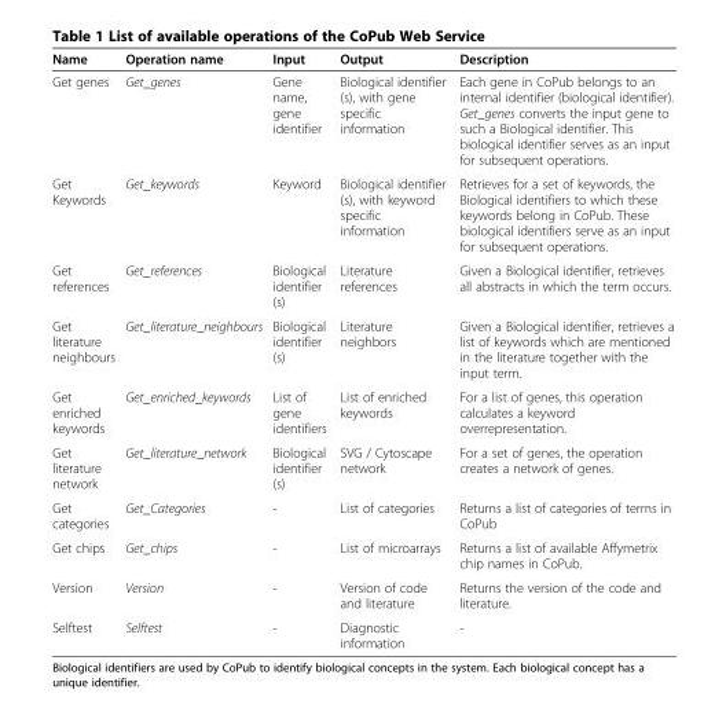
<table><thead><tr><td>Name</td><td>Operation name</td><td>Input</td><td>Output</td><td>Description</td></tr></thead><tbody><tr><td>Get genes</td><td>Get_genes</td><td>Gene name, gene identifier</td><td>Biological identifier (s), with gene specific information</td><td>Each gene in CoPub belongs to an internal identifier (biological identifier). Get_genes converts the input gene to such a Biological identifier. This biological identifier serves as an input for subsequent operations.</td></tr><tr><td>Get Keywords</td><td>Get_keywords</td><td>Keyword</td><td>Biological identifier (s), with keyword specific information</td><td>Retrieves for a set of keywords, the Biological identifiers to which these keywords belong in CoPub. These biological identifiers serve as an input for subsequent operations.</td></tr><tr><td>Get references</td><td>Get_references</td><td>Biological identifier (s)</td><td>Literature references</td><td>Given a Biological identifier, retrieves all abstracts in which the term occurs.</td></tr><tr><td>Get literature neighbours</td><td>Get_literature_neighbours</td><td>Biological identifier (s)</td><td>Literature neighbors</td><td>Given a Biological identifier, retrieves a list of keywords which are mentioned in the literature together with the input term.</td></tr><tr><td>Get enriched keywords</td><td>Get_enriched_keywords</td><td>List of gene identifiers</td><td>List of enriched keywords</td><td>For a list of genes, this operation calculates a keyword overrepresentation.</td></tr><tr><td>Get literature network</td><td>Get_literature_network</td><td>Biological identifier (s)</td><td>SVG / Cytoscape network</td><td>For a set of genes, the operation creates a network of genes.</td></tr><tr><td>Get categories</td><td>Get_Categories</td><td>-</td><td>List of categories</td><td>Returns a list of categories of terms in CoPub</td></tr><tr><td>Get chips</td><td>Get_chips</td><td>-</td><td>List of microarrays</td><td>Returns a list of available Affymetrix chip names in CoPub.</td></tr><tr><td>Version</td><td>Version</td><td>-</td><td>Version of code and literature</td><td>Returns the version of the code and literature.</td></tr><tr><td>Selftest</td><td>Selftest</td><td>-</td><td>Diagnostic information</td><td>-</td></tr></tbody></table>